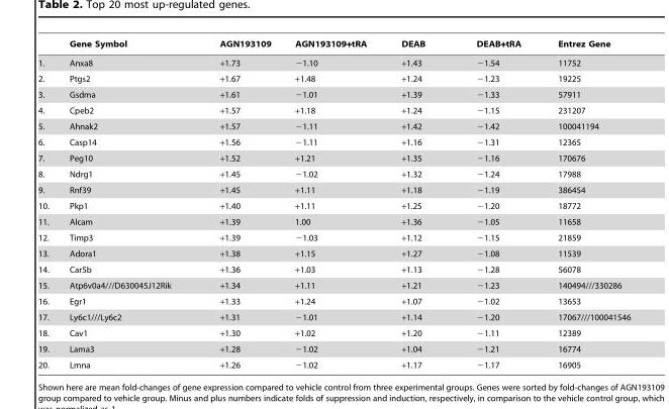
<table><thead><tr><td></td><td>Gene Symbol</td><td>AGN193109</td><td>AGN193109+tRA</td><td>DEAB</td><td>DEAB+tRA</td><td>Entrez Gene</td></tr></thead><tbody><tr><td>1.</td><td>Anxa8</td><td>+1.73</td><td>−1.10</td><td>+1.43</td><td>−1.54</td><td>11752</td></tr><tr><td>2.</td><td>Ptgs2</td><td>+1.67</td><td>+1.48</td><td>+1.24</td><td>−1.23</td><td>19225</td></tr><tr><td>3.</td><td>Gsdma</td><td>+1.61</td><td>−1.01</td><td>+1.39</td><td>−1.33</td><td>57911</td></tr><tr><td>4.</td><td>Cpeb2</td><td>+1.57</td><td>+1.18</td><td>+1.24</td><td>−1.15</td><td>231207</td></tr><tr><td>5.</td><td>Ahnak2</td><td>+1.57</td><td>−1.11</td><td>+1.42</td><td>−1.42</td><td>100041194</td></tr><tr><td>6.</td><td>Casp14</td><td>+1.56</td><td>−1.11</td><td>+1.16</td><td>−1.31</td><td>12365</td></tr><tr><td>7.</td><td>Peg10</td><td>+1.52</td><td>+1.21</td><td>+1.35</td><td>−1.16</td><td>170676</td></tr><tr><td>8.</td><td>Ndrg1</td><td>+1.45</td><td>−1.02</td><td>+1.32</td><td>−1.24</td><td>17988</td></tr><tr><td>9.</td><td>Rnf39</td><td>+1.45</td><td>+1.11</td><td>+1.18</td><td>−1.19</td><td>386454</td></tr><tr><td>10.</td><td>Pkp1</td><td>+1.40</td><td>+1.11</td><td>+1.25</td><td>−1.20</td><td>18772</td></tr><tr><td>11.</td><td>Alcam</td><td>+1.39</td><td>1.00</td><td>+1.36</td><td>−1.05</td><td>11658</td></tr><tr><td>12.</td><td>Timp3</td><td>+1.39</td><td>−1.03</td><td>+1.12</td><td>−1.15</td><td>21859</td></tr><tr><td>13.</td><td>Adora1</td><td>+1.38</td><td>+1.15</td><td>+1.27</td><td>−1.08</td><td>11539</td></tr><tr><td>14.</td><td>Car5b</td><td>+1.36</td><td>+1.03</td><td>+1.13</td><td>−1.28</td><td>56078</td></tr><tr><td>15.</td><td>Atp6v0a4///D630045J12Rik</td><td>+1.34</td><td>+1.11</td><td>+1.21</td><td>−1.23</td><td>140494///330286</td></tr><tr><td>16.</td><td>Egr1</td><td>+1.33</td><td>+1.24</td><td>+1.07</td><td>−1.02</td><td>13653</td></tr><tr><td>17.</td><td>Ly6c1///Ly6c2</td><td>+1.31</td><td>−1.01</td><td>+1.14</td><td>−1.20</td><td>17067///100041546</td></tr><tr><td>18.</td><td>Cav1</td><td>+1.30</td><td>+1.02</td><td>+1.20</td><td>−1.11</td><td>12389</td></tr><tr><td>19.</td><td>Lama3</td><td>+1.28</td><td>−1.02</td><td>+1.04</td><td>−1.21</td><td>16774</td></tr><tr><td>20.</td><td>Lmna</td><td>+1.26</td><td>−1.02</td><td>+1.17</td><td>−1.17</td><td>16905</td></tr></tbody></table>